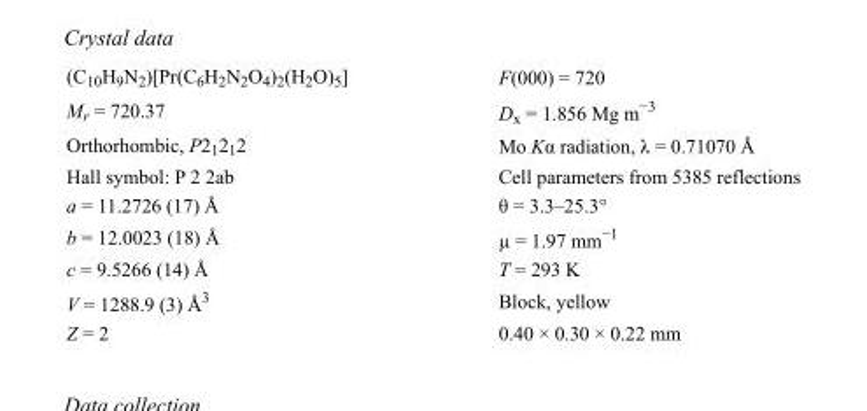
<table><tbody><tr><td>(C<sub>10</sub>H<sub>9</sub>N<sub>2</sub>)[Pr(C<sub>6</sub>H<sub>2</sub>N<sub>2</sub>O<sub>4</sub>)<sub>2</sub>(H<sub>2</sub>O)<sub>5</sub>]</td><td>F(000) = 720</td></tr><tr><td>M<sub>r</sub> = 720.37</td><td>D<sub>x</sub> = 1.856 Mg m<sup>−3</sup></td></tr><tr><td>Orthorhombic, P2<sub>1</sub>2<sub>1</sub>2</td><td>Mo Kα radiation, λ = 0.71070 Å</td></tr><tr><td>Hall symbol: P 2 2ab</td><td>Cell parameters from 5385 reflections</td></tr><tr><td>a = 11.2726 (17) Å</td><td>θ = 3.3–25.3°</td></tr><tr><td>b = 12.0023 (18) Å</td><td>µ = 1.97 mm<sup>−1</sup></td></tr><tr><td>c = 9.5266 (14) Å</td><td>T = 293 K</td></tr><tr><td>V = 1288.9 (3) Å<sup>3</sup></td><td>Block, yellow</td></tr><tr><td>Z = 2</td><td>0.40 × 0.30 × 0.22 mm</td></tr></tbody></table>